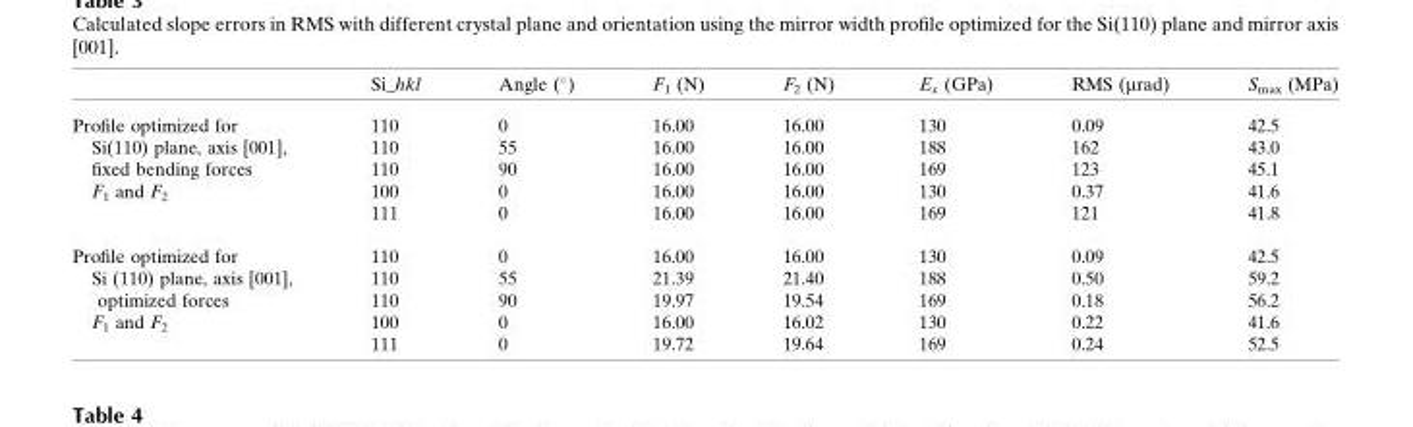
<table><thead><tr><td></td><td>Si_hkl</td><td>Angle (°)</td><td>F<sub>1</sub> (N)</td><td>F<sub>2</sub> (N)</td><td>E<sub>x</sub> (GPa)</td><td>RMS (µrad)</td><td>S<sub>max</sub> (MPa)</td></tr></thead><tbody><tr><td rowspan="5">Profile optimized for Si(110) plane, axis [001], fixed bending forces F<sub>1</sub> and F<sub>2</sub></td><td>110</td><td>0</td><td>16.00</td><td>16.00</td><td>130</td><td>0.09</td><td>42.5</td></tr><tr><td>110</td><td>55</td><td>16.00</td><td>16.00</td><td>188</td><td>162</td><td>43.0</td></tr><tr><td>110</td><td>90</td><td>16.00</td><td>16.00</td><td>169</td><td>123</td><td>45.1</td></tr><tr><td>100</td><td>0</td><td>16.00</td><td>16.00</td><td>130</td><td>0.37</td><td>41.6</td></tr><tr><td>111</td><td>0</td><td>16.00</td><td>16.00</td><td>169</td><td>121</td><td>41.8</td></tr><tr><td rowspan="5">Profile optimized for Si (110) plane, axis [001], optimized forces F<sub>1</sub> and F<sub>2</sub></td><td>110</td><td>0</td><td>16.00</td><td>16.00</td><td>130</td><td>0.09</td><td>42.5</td></tr><tr><td>110</td><td>55</td><td>21.39</td><td>21.40</td><td>188</td><td>0.50</td><td>59.2</td></tr><tr><td>110</td><td>90</td><td>19.97</td><td>19.54</td><td>169</td><td>0.18</td><td>56.2</td></tr><tr><td>100</td><td>0</td><td>16.00</td><td>16.02</td><td>130</td><td>0.22</td><td>41.6</td></tr><tr><td>111</td><td>0</td><td>19.72</td><td>19.64</td><td>169</td><td>0.24</td><td>52.5</td></tr></tbody></table>